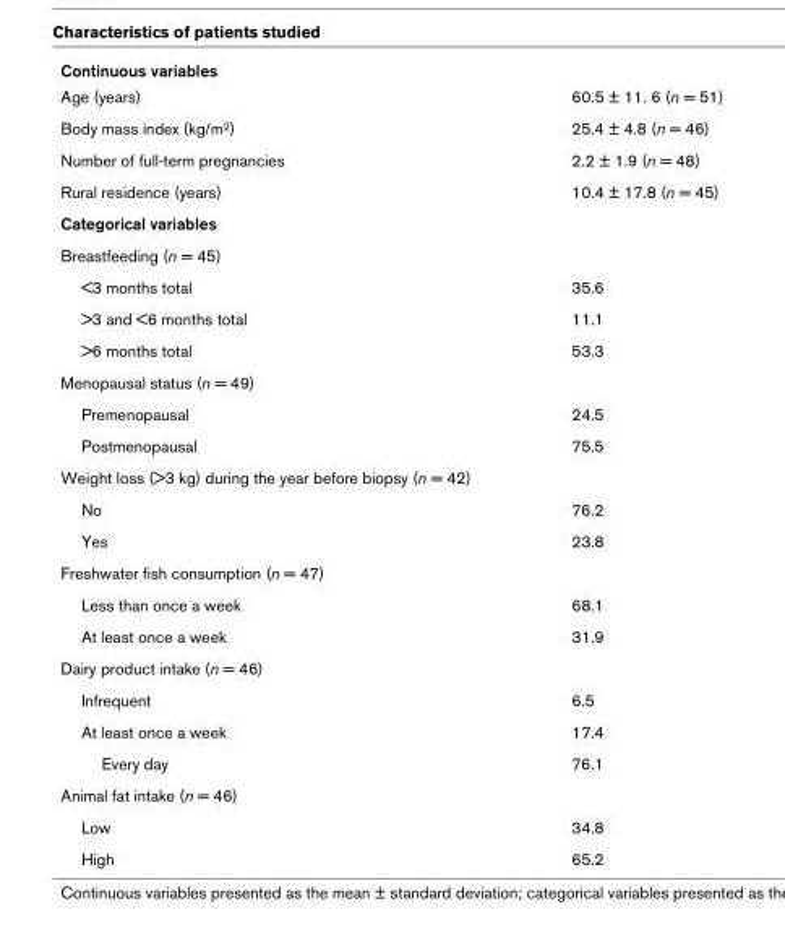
<table><tbody><tr><td colspan="2">Continuous variables</td></tr><tr><td>Age (years)</td><td>60.5 ± 11. 6 (n = 51)</td></tr><tr><td>Body mass index (kg/m2)</td><td>25.4 ± 4.8 (n = 46)</td></tr><tr><td>Number of full-term pregnancies</td><td>2.2 ± 1.9 (n = 48)</td></tr><tr><td>Rural residence (years)</td><td>10.4 ± 17.8 (n = 45)</td></tr><tr><td colspan="2">Categorical variables</td></tr><tr><td colspan="2">Breastfeeding (n = 45)</td></tr><tr><td>&lt;3 months total</td><td>35.6</td></tr><tr><td>&gt;3 and &lt;6 months total</td><td>11.1</td></tr><tr><td>&gt;6 months total</td><td>53.3</td></tr><tr><td colspan="2">Menopausal status (n = 49)</td></tr><tr><td>Premenopausal</td><td>24.5</td></tr><tr><td>Postmenopausal</td><td>75.5</td></tr><tr><td colspan="2">Weight loss (&gt;3 kg) during the year before biopsy (n = 42)</td></tr><tr><td>No</td><td>76.2</td></tr><tr><td>Yes</td><td>23.8</td></tr><tr><td colspan="2">Freshwater fish consumption (n = 47)</td></tr><tr><td>Less than once a week</td><td>68.1</td></tr><tr><td>At least once a week</td><td>31.9</td></tr><tr><td colspan="2">Dairy product intake (n = 46)</td></tr><tr><td>Infrequent</td><td>6.5</td></tr><tr><td>At least once a week</td><td>17.4</td></tr><tr><td>Every day</td><td>76.1</td></tr><tr><td colspan="2">Animal fat intake (n = 46)</td></tr><tr><td>Low</td><td>34.8</td></tr><tr><td>High</td><td>65.2</td></tr></tbody></table>